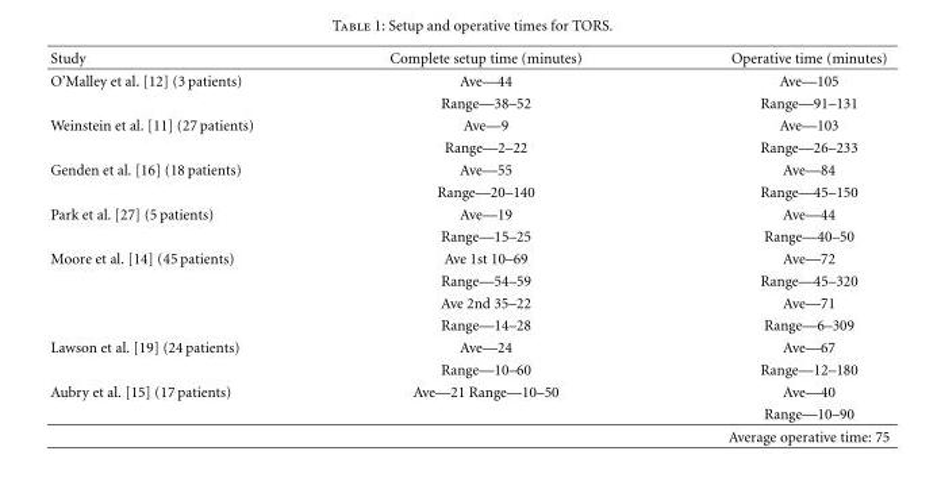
<table><thead><tr><td>Study</td><td>Complete setup time (minutes)</td><td>Operative time (minutes)</td></tr></thead><tbody><tr><td rowspan="2">O’Malley et al. [12] (3 patients)</td><td>Ave—44</td><td>Ave—105</td></tr><tr><td>Range—38–52</td><td>Range—91–131</td></tr><tr><td rowspan="2">Weinstein et al. [11] (27 patients)</td><td>Ave—9</td><td>Ave—103</td></tr><tr><td>Range—2–22</td><td>Range—26–233</td></tr><tr><td rowspan="2">Genden et al. [16] (18 patients)</td><td>Ave—55</td><td>Ave—84</td></tr><tr><td>Range—20–140</td><td>Range—45–150</td></tr><tr><td rowspan="2">Park et al. [27] (5 patients)</td><td>Ave—19</td><td>Ave—44</td></tr><tr><td>Range—15–25</td><td>Range—40–50</td></tr><tr><td rowspan="4">Moore et al. [14] (45 patients)</td><td>Ave 1st 10–69</td><td>Ave—72</td></tr><tr><td>Range—54–59</td><td>Range—45–320</td></tr><tr><td>Ave 2nd 35–22</td><td>Ave—71</td></tr><tr><td>Range—14–28</td><td>Range—6–309</td></tr><tr><td rowspan="2">Lawson et al. [19] (24 patients)</td><td>Ave—24</td><td>Ave—67</td></tr><tr><td>Range—10–60</td><td>Range—12–180</td></tr><tr><td rowspan="3">Aubry et al. [15] (17 patients)</td><td>Ave—21 Range—10–50</td><td>Ave—40</td></tr><tr><td></td><td>Range—10–90</td></tr><tr><td></td><td>Average operative time: 75</td></tr></tbody></table>